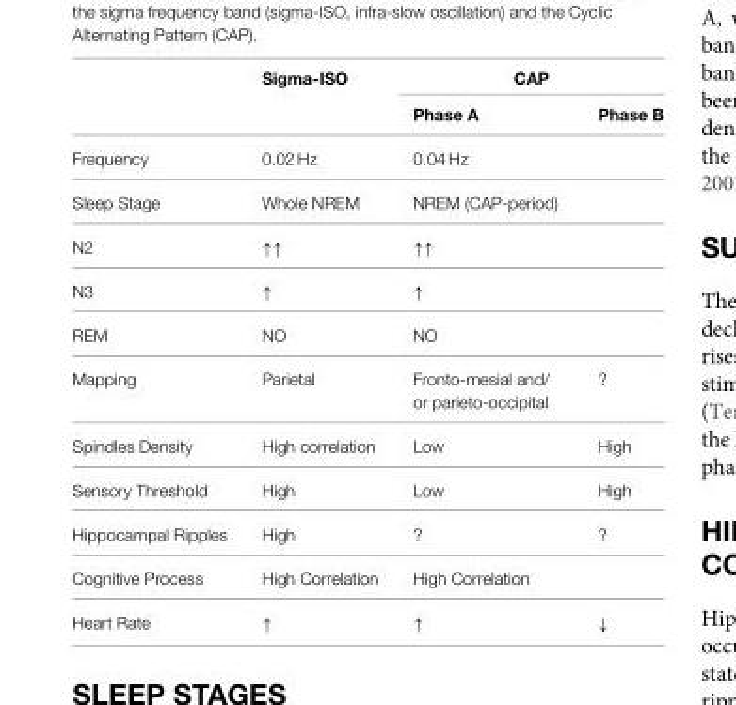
<table><thead><tr><td rowspan="2"></td><td rowspan="2">Sigma-ISO</td><td colspan="2">CAP</td></tr><tr><td>Phase A</td><td>Phase B</td></tr></thead><tbody><tr><td>Frequency</td><td>0.02 Hz</td><td>0.04 Hz</td><td></td></tr><tr><td>Sleep Stage</td><td>Whole NREM</td><td>NREM (CAP-period)</td><td></td></tr><tr><td>N2</td><td>↑↑</td><td>↑↑</td><td></td></tr><tr><td>N3</td><td>↑</td><td>↑</td><td></td></tr><tr><td>REM</td><td>NO</td><td>NO</td><td></td></tr><tr><td>Mapping</td><td>Parietal</td><td>Fronto-mesial and/ or parieto-occipital</td><td>?</td></tr><tr><td>Spindles Density</td><td>High correlation</td><td>Low</td><td>High</td></tr><tr><td>Sensory Threshold</td><td>High</td><td>Low</td><td>High</td></tr><tr><td>Hippocampal Ripples</td><td>High</td><td>?</td><td>?</td></tr><tr><td>Cognitive Process</td><td>High Correlation</td><td>High Correlation</td><td></td></tr><tr><td>Heart Rate</td><td>↑</td><td>↑</td><td>↓</td></tr></tbody></table>